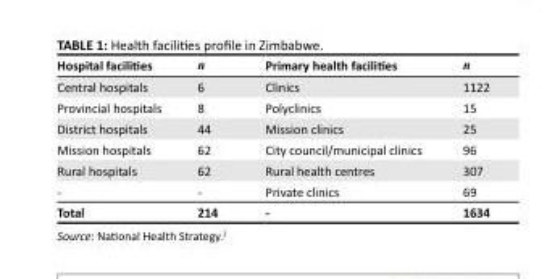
<table><thead><tr><td>Hospital facilities</td><td>n</td><td>Primary health facilities</td><td>n</td></tr></thead><tbody><tr><td>Central hospitals</td><td>6</td><td>Clinics</td><td>1122</td></tr><tr><td>Provincial hospitals</td><td>8</td><td>Polyclinics</td><td>15</td></tr><tr><td>District hospitals</td><td>44</td><td>Mission clinics</td><td>25</td></tr><tr><td>Mission hospitals</td><td>62</td><td>City council/municipal clinics</td><td>96</td></tr><tr><td>Rural hospitals</td><td>62</td><td>Rural health centres</td><td>307</td></tr><tr><td>-</td><td>-</td><td>Private clinics</td><td>69</td></tr><tr><td>Total</td><td>214</td><td>-</td><td>1634</td></tr></tbody></table>